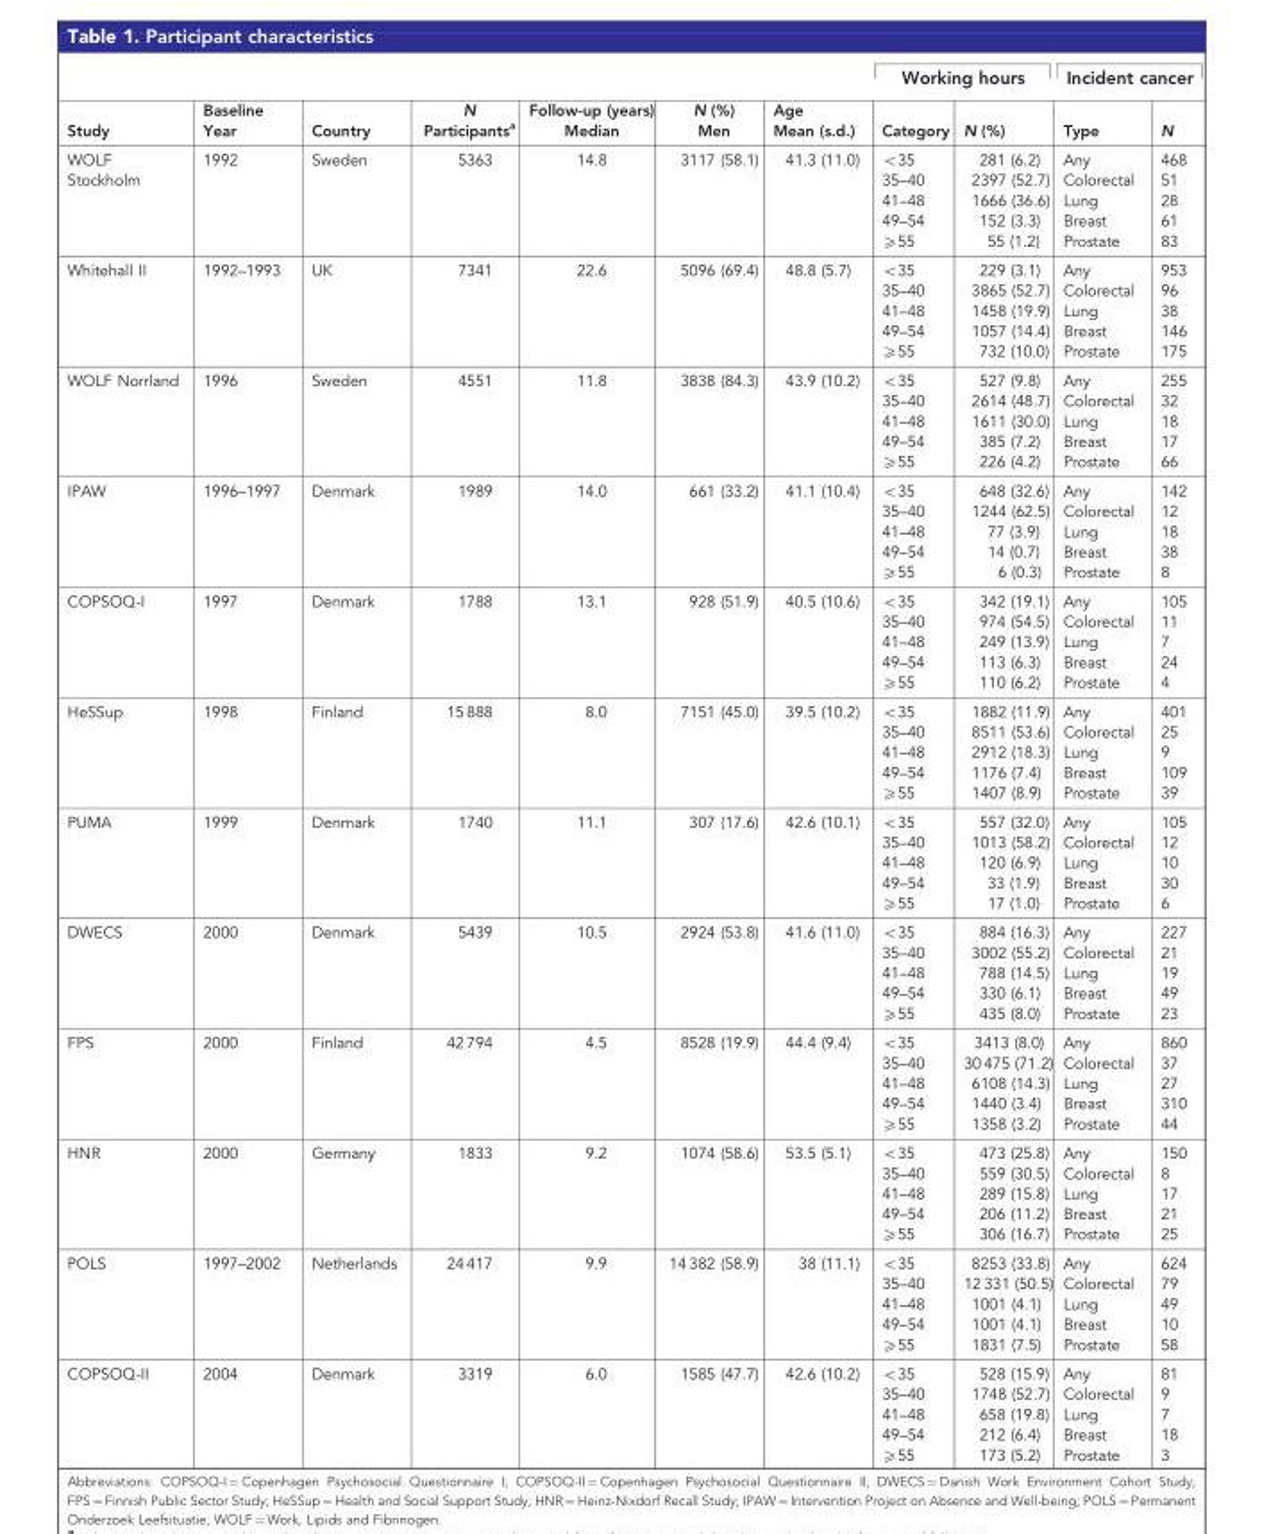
<table><thead><tr><td rowspan="2">Study</td><td rowspan="2">Baseline Year</td><td rowspan="2">Country</td><td rowspan="2">N Participants<sup>a</sup></td><td rowspan="2">Follow-up (years) Median</td><td rowspan="2">N (%) Men</td><td rowspan="2">Age Mean (s.d.)</td><td colspan="2">Working hours</td><td colspan="2">Incident cancer</td></tr><tr><td>Category</td><td>N (%)</td><td>Type</td><td>N</td></tr></thead><tbody><tr><td>WOLF Stockholm</td><td>1992</td><td>Sweden</td><td>5363</td><td>14.8</td><td>3117 (58.1)</td><td>41.3 (11.0)</td><td>&lt;35 35–40 41–48 49–54 ⩾55</td><td>281 (6.2) 2397 (52.7) 1666 (36.6) 152 (3.3) 55 (1.2)</td><td>Any Colorectal Lung Breast Prostate</td><td>468 51 28 61 83</td></tr><tr><td>Whitehall II</td><td>1992–1993</td><td>UK</td><td>7341</td><td>22.6</td><td>5096 (69.4)</td><td>48.8 (5.7)</td><td>&lt;35 35–40 41–48 49–54 ⩾55</td><td>229 (3.1) 3865 (52.7) 1458 (19.9) 1057 (14.4) 732 (10.0)</td><td>Any Colorectal Lung Breast Prostate</td><td>953 96 38 146 175</td></tr><tr><td>WOLF Norrland</td><td>1996</td><td>Sweden</td><td>4551</td><td>11.8</td><td>3838 (84.3)</td><td>43.9 (10.2)</td><td>&lt;35 35–40 41–48 49–54 ⩾55</td><td>527 (9.8) 2614 (48.7) 1611 (30.0) 385 (7.2) 226 (4.2)</td><td>Any Colorectal Lung Breast Prostate</td><td>255 32 18 17 66</td></tr><tr><td>IPAW</td><td>1996–1997</td><td>Denmark</td><td>1989</td><td>14.0</td><td>661 (33.2)</td><td>41.1 (10.4)</td><td>&lt;35 35–40 41–48 49–54 ⩾55</td><td>648 (32.6) 1244 (62.5) 77 (3.9) 14 (0.7) 6 (0.3)</td><td>Any Colorectal Lung Breast Prostate</td><td>142 12 18 38 8</td></tr><tr><td>COPSOQ-I</td><td>1997</td><td>Denmark</td><td>1788</td><td>13.1</td><td>928 (51.9)</td><td>40.5 (10.6)</td><td>&lt;35 35–40 41–48 49–54 ⩾55</td><td>342 (19.1) 974 (54.5) 249 (13.9) 113 (6.3) 110 (6.2)</td><td>Any Colorectal Lung Breast Prostate</td><td>105 11 7 24 4</td></tr><tr><td>HeSSup</td><td>1998</td><td>Finland</td><td>15 888</td><td>8.0</td><td>7151 (45.0)</td><td>39.5 (10.2)</td><td>&lt;35 35–40 41–48 49–54 ⩾55</td><td>1882 (11.9) 8511 (53.6) 2912 (18.3) 1176 (7.4) 1407 (8.9)</td><td>Any Colorectal Lung Breast Prostate</td><td>401 25 9 109 39</td></tr><tr><td>PUMA</td><td>1999</td><td>Denmark</td><td>1740</td><td>11.1</td><td>307 (17.6)</td><td>42.6 (10.1)</td><td>&lt;35 35–40 41–48 49–54 ⩾55</td><td>557 (32.0) 1013 (58.2) 120 (6.9) 33 (1.9) 17 (1.0)</td><td>Any Colorectal Lung Breast Prostate</td><td>105 12 10 30 6</td></tr><tr><td>DWECS</td><td>2000</td><td>Denmark</td><td>5439</td><td>10.5</td><td>2924 (53.8)</td><td>41.6 (11.0)</td><td>&lt;35 35–40 41–48 49–54 ⩾55</td><td>884 (16.3) 3002 (55.2) 788 (14.5) 330 (6.1) 435 (8.0)</td><td>Any Colorectal Lung Breast Prostate</td><td>227 21 19 49 23</td></tr><tr><td>FPS</td><td>2000</td><td>Finland</td><td>42 794</td><td>4.5</td><td>8528 (19.9)</td><td>44.4 (9.4)</td><td>&lt;35 35–40 41–48 49–54 ⩾55</td><td>3413 (8.0) 30 475 (71.2) 6108 (14.3) 1440 (3.4) 1358 (3.2)</td><td>Any Colorectal Lung Breast Prostate</td><td>860 37 27 310 44</td></tr><tr><td>HNR</td><td>2000</td><td>Germany</td><td>1833</td><td>9.2</td><td>1074 (58.6)</td><td>53.5 (5.1)</td><td>&lt;35 35–40 41–48 49–54 ⩾55</td><td>473 (25.8) 559 (30.5) 289 (15.8) 206 (11.2) 306 (16.7)</td><td>Any Colorectal Lung Breast Prostate</td><td>150 8 17 21 25</td></tr><tr><td>POLS</td><td>1997–2002</td><td>Netherlands</td><td>24 417</td><td>9.9</td><td>14 382 (58.9)</td><td>38 (11.1)</td><td>&lt;35 35–40 41–48 49–54 ⩾55</td><td>8253 (33.8) 12 331 (50.5) 1001 (4.1) 1001 (4.1) 1831 (7.5)</td><td>Any Colorectal Lung Breast Prostate</td><td>624 79 49 10 58</td></tr><tr><td>COPSOQ-II</td><td>2004</td><td>Denmark</td><td>3319</td><td>6.0</td><td>1585 (47.7)</td><td>42.6 (10.2)</td><td>&lt;35 35–40 41–48 49–54 ⩾55</td><td>528 (15.9) 1748 (52.7) 658 (19.8) 212 (6.4) 173 (5.2)</td><td>Any Colorectal Lung Breast Prostate</td><td>81 9 7 18 3</td></tr></tbody></table>